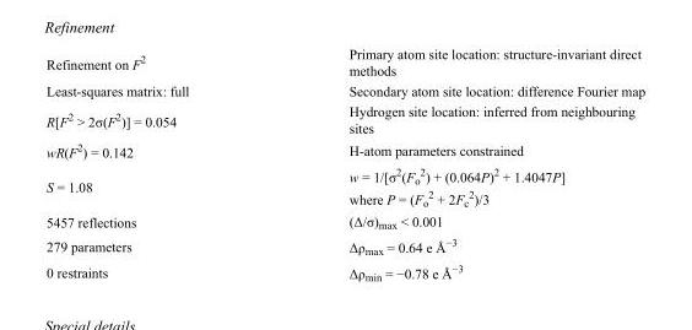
<table><tbody><tr><td>Refinement on F<sup>2</sup></td><td>Primary atom site location: structure-invariant direct methods</td></tr><tr><td>Least-squares matrix: full</td><td>Secondary atom site location: difference Fourier map</td></tr><tr><td>R[F<sup>2</sup> &gt; 2σ(F<sup>2</sup>)] = 0.054</td><td>Hydrogen site location: inferred from neighbouring sites</td></tr><tr><td>wR(F<sup>2</sup>) = 0.142</td><td>H-atom parameters constrained</td></tr><tr><td>S = 1.08</td><td>w = 1/[σ<sup>2</sup>(F<sub>o</sub> <sup>2</sup>) + (0.064P)<sup>2</sup> + 1.4047P] where P = (F<sub>o</sub> <sup>2</sup> + 2F<sub>c</sub> <sup>2</sup>)/3</td></tr><tr><td>5457 reflections</td><td>(Δ/σ)<sub>max</sub> &lt; 0.001</td></tr><tr><td>279 parameters</td><td>Δρ<sub>max</sub> = 0.64 e Å<sup>−3</sup></td></tr><tr><td>0 restraints</td><td>Δρ<sub>min</sub> = −0.78 e Å<sup>−3</sup></td></tr></tbody></table>